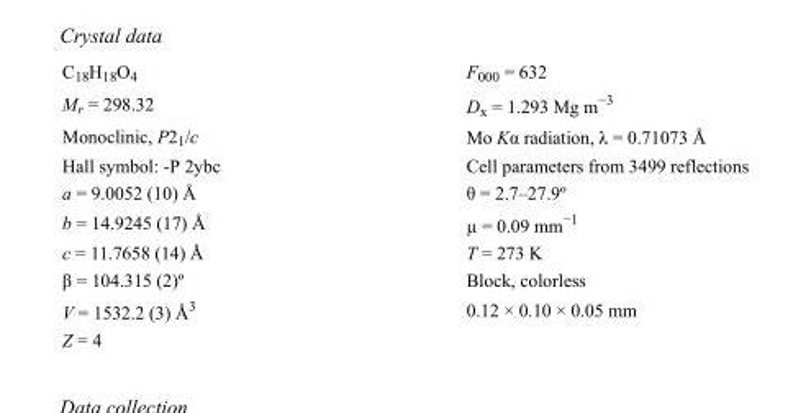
<table><tbody><tr><td>C<sub>18</sub>H<sub>18</sub>O<sub>4</sub></td><td>F000 = 632</td></tr><tr><td>M<sub>r</sub> = 298.32</td><td>D<sub>x</sub> = 1.293 Mg m<sup>−3</sup></td></tr><tr><td>Monoclinic, P2<sub>1</sub>/c</td><td>Mo Kα radiation, λ = 0.71073 Å</td></tr><tr><td>Hall symbol: -P 2ybc</td><td>Cell parameters from 3499 reflections</td></tr><tr><td>a = 9.0052 (10) Å</td><td>θ = 2.7–27.9º</td></tr><tr><td>b = 14.9245 (17) Å</td><td>µ = 0.09 mm<sup>−1</sup></td></tr><tr><td>c = 11.7658 (14) Å</td><td>T = 273 K</td></tr><tr><td>β = 104.315 (2)º</td><td>Block, colorless</td></tr><tr><td>V = 1532.2 (3) Å<sup>3</sup></td><td>0.12 × 0.10 × 0.05 mm</td></tr><tr><td>Z = 4</td><td></td></tr></tbody></table>